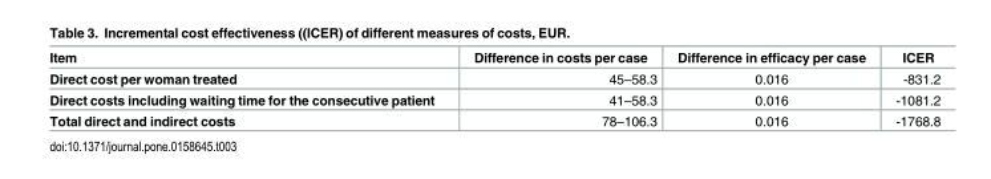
<table><thead><tr><td>Item</td><td>Difference in costs per case</td><td>Difference in efficacy per case</td><td>ICER</td></tr></thead><tbody><tr><td>Direct cost per woman treated</td><td>45–58.3</td><td>0.016</td><td>-831.2</td></tr><tr><td>Direct costs including waiting time for the consecutive patient</td><td>41–58.3</td><td>0.016</td><td>-1081.2</td></tr><tr><td>Total direct and indirect costs</td><td>78–106.3</td><td>0.016</td><td>-1768.8</td></tr></tbody></table>